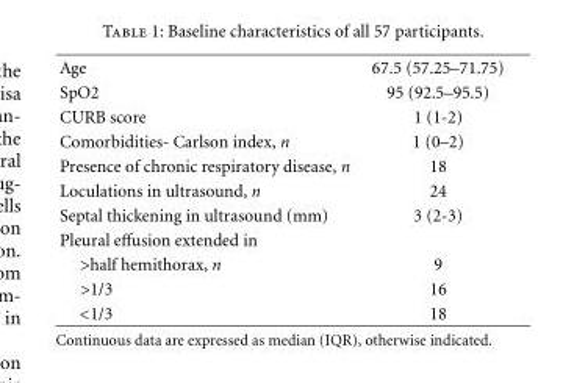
<table><tbody><tr><td>Age</td><td>67.5 (57.25–71.75)</td></tr><tr><td>SpO2</td><td>95 (92.5–95.5)</td></tr><tr><td>CURB score</td><td>1 (1-2)</td></tr><tr><td>Comorbidities- Carlson index, n</td><td>1 (0–2)</td></tr><tr><td>Presence of chronic respiratory disease, n</td><td>18</td></tr><tr><td>Loculations in ultrasound, n</td><td>24</td></tr><tr><td>Septal thickening in ultrasound (mm)</td><td>3 (2-3)</td></tr><tr><td colspan="2">Pleural effusion extended in</td></tr><tr><td>&gt;half hemithorax, n</td><td>9</td></tr><tr><td>&gt;1/3</td><td>16</td></tr><tr><td>&lt;1/3</td><td>18</td></tr></tbody></table>